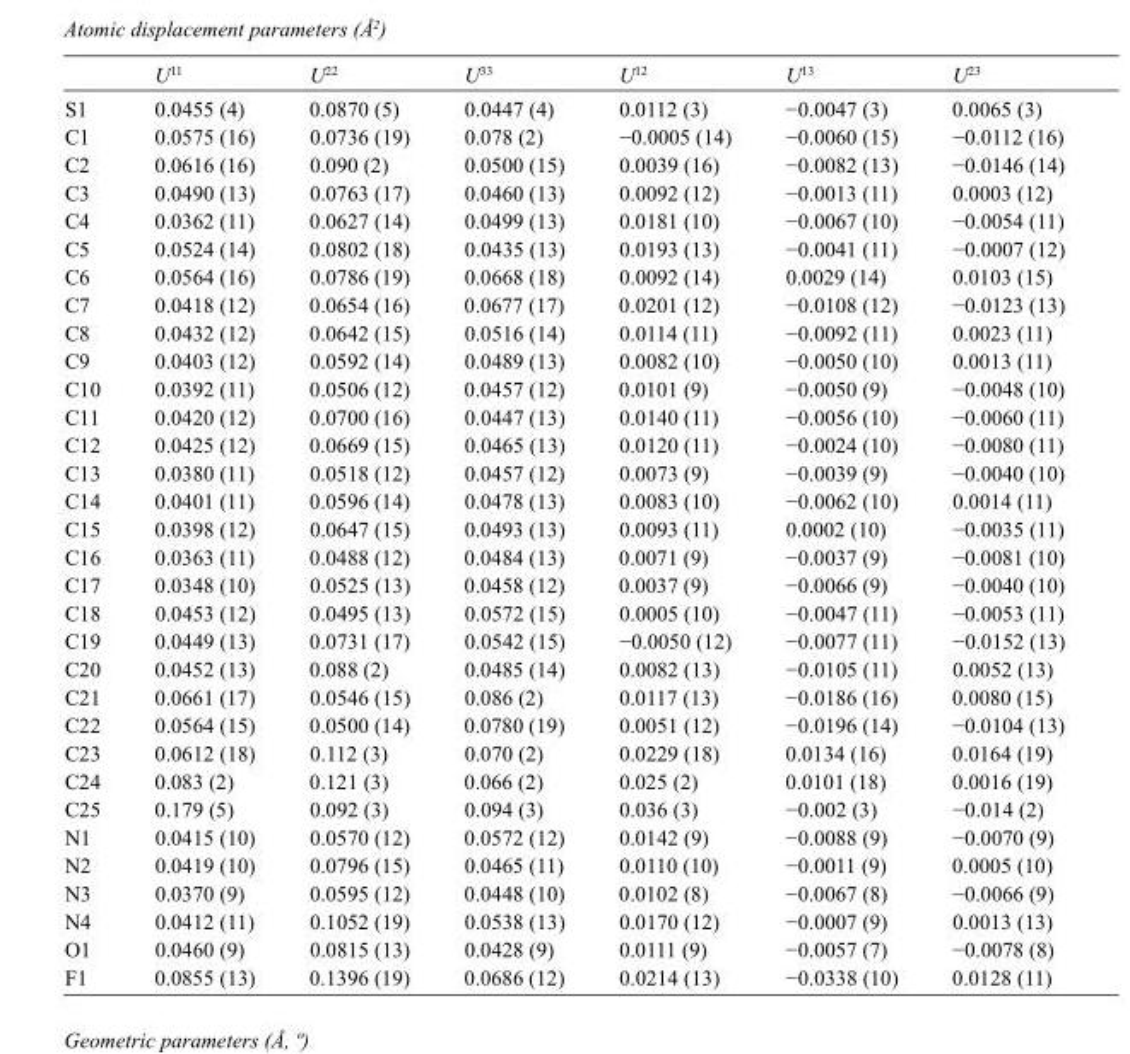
<table><thead><tr><td></td><td>U<sup>11</sup></td><td>U<sup>22</sup></td><td>U<sup>33</sup></td><td>U<sup>12</sup></td><td>U<sup>13</sup></td><td>U<sup>23</sup></td></tr></thead><tbody><tr><td>S1</td><td>0.0455 (4)</td><td>0.0870 (5)</td><td>0.0447 (4)</td><td>0.0112 (3)</td><td>−0.0047 (3)</td><td>0.0065 (3)</td></tr><tr><td>C1</td><td>0.0575 (16)</td><td>0.0736 (19)</td><td>0.078 (2)</td><td>−0.0005 (14)</td><td>−0.0060 (15)</td><td>−0.0112 (16)</td></tr><tr><td>C2</td><td>0.0616 (16)</td><td>0.090 (2)</td><td>0.0500 (15)</td><td>0.0039 (16)</td><td>−0.0082 (13)</td><td>−0.0146 (14)</td></tr><tr><td>C3</td><td>0.0490 (13)</td><td>0.0763 (17)</td><td>0.0460 (13)</td><td>0.0092 (12)</td><td>−0.0013 (11)</td><td>0.0003 (12)</td></tr><tr><td>C4</td><td>0.0362 (11)</td><td>0.0627 (14)</td><td>0.0499 (13)</td><td>0.0181 (10)</td><td>−0.0067 (10)</td><td>−0.0054 (11)</td></tr><tr><td>C5</td><td>0.0524 (14)</td><td>0.0802 (18)</td><td>0.0435 (13)</td><td>0.0193 (13)</td><td>−0.0041 (11)</td><td>−0.0007 (12)</td></tr><tr><td>C6</td><td>0.0564 (16)</td><td>0.0786 (19)</td><td>0.0668 (18)</td><td>0.0092 (14)</td><td>0.0029 (14)</td><td>0.0103 (15)</td></tr><tr><td>C7</td><td>0.0418 (12)</td><td>0.0654 (16)</td><td>0.0677 (17)</td><td>0.0201 (12)</td><td>−0.0108 (12)</td><td>−0.0123 (13)</td></tr><tr><td>C8</td><td>0.0432 (12)</td><td>0.0642 (15)</td><td>0.0516 (14)</td><td>0.0114 (11)</td><td>−0.0092 (11)</td><td>0.0023 (11)</td></tr><tr><td>C9</td><td>0.0403 (12)</td><td>0.0592 (14)</td><td>0.0489 (13)</td><td>0.0082 (10)</td><td>−0.0050 (10)</td><td>0.0013 (11)</td></tr><tr><td>C10</td><td>0.0392 (11)</td><td>0.0506 (12)</td><td>0.0457 (12)</td><td>0.0101 (9)</td><td>−0.0050 (9)</td><td>−0.0048 (10)</td></tr><tr><td>C11</td><td>0.0420 (12)</td><td>0.0700 (16)</td><td>0.0447 (13)</td><td>0.0140 (11)</td><td>−0.0056 (10)</td><td>−0.0060 (11)</td></tr><tr><td>C12</td><td>0.0425 (12)</td><td>0.0669 (15)</td><td>0.0465 (13)</td><td>0.0120 (11)</td><td>−0.0024 (10)</td><td>−0.0080 (11)</td></tr><tr><td>C13</td><td>0.0380 (11)</td><td>0.0518 (12)</td><td>0.0457 (12)</td><td>0.0073 (9)</td><td>−0.0039 (9)</td><td>−0.0040 (10)</td></tr><tr><td>C14</td><td>0.0401 (11)</td><td>0.0596 (14)</td><td>0.0478 (13)</td><td>0.0083 (10)</td><td>−0.0062 (10)</td><td>0.0014 (11)</td></tr><tr><td>C15</td><td>0.0398 (12)</td><td>0.0647 (15)</td><td>0.0493 (13)</td><td>0.0093 (11)</td><td>0.0002 (10)</td><td>−0.0035 (11)</td></tr><tr><td>C16</td><td>0.0363 (11)</td><td>0.0488 (12)</td><td>0.0484 (13)</td><td>0.0071 (9)</td><td>−0.0037 (9)</td><td>−0.0081 (10)</td></tr><tr><td>C17</td><td>0.0348 (10)</td><td>0.0525 (13)</td><td>0.0458 (12)</td><td>0.0037 (9)</td><td>−0.0066 (9)</td><td>−0.0040 (10)</td></tr><tr><td>C18</td><td>0.0453 (12)</td><td>0.0495 (13)</td><td>0.0572 (15)</td><td>0.0005 (10)</td><td>−0.0047 (11)</td><td>−0.0053 (11)</td></tr><tr><td>C19</td><td>0.0449 (13)</td><td>0.0731 (17)</td><td>0.0542 (15)</td><td>−0.0050 (12)</td><td>−0.0077 (11)</td><td>−0.0152 (13)</td></tr><tr><td>C20</td><td>0.0452 (13)</td><td>0.088 (2)</td><td>0.0485 (14)</td><td>0.0082 (13)</td><td>−0.0105 (11)</td><td>0.0052 (13)</td></tr><tr><td>C21</td><td>0.0661 (17)</td><td>0.0546 (15)</td><td>0.086 (2)</td><td>0.0117 (13)</td><td>−0.0186 (16)</td><td>0.0080 (15)</td></tr><tr><td>C22</td><td>0.0564 (15)</td><td>0.0500 (14)</td><td>0.0780 (19)</td><td>0.0051 (12)</td><td>−0.0196 (14)</td><td>−0.0104 (13)</td></tr><tr><td>C23</td><td>0.0612 (18)</td><td>0.112 (3)</td><td>0.070 (2)</td><td>0.0229 (18)</td><td>0.0134 (16)</td><td>0.0164 (19)</td></tr><tr><td>C24</td><td>0.083 (2)</td><td>0.121 (3)</td><td>0.066 (2)</td><td>0.025 (2)</td><td>0.0101 (18)</td><td>0.0016 (19)</td></tr><tr><td>C25</td><td>0.179 (5)</td><td>0.092 (3)</td><td>0.094 (3)</td><td>0.036 (3)</td><td>−0.002 (3)</td><td>−0.014 (2)</td></tr><tr><td>N1</td><td>0.0415 (10)</td><td>0.0570 (12)</td><td>0.0572 (12)</td><td>0.0142 (9)</td><td>−0.0088 (9)</td><td>−0.0070 (9)</td></tr><tr><td>N2</td><td>0.0419 (10)</td><td>0.0796 (15)</td><td>0.0465 (11)</td><td>0.0110 (10)</td><td>−0.0011 (9)</td><td>0.0005 (10)</td></tr><tr><td>N3</td><td>0.0370 (9)</td><td>0.0595 (12)</td><td>0.0448 (10)</td><td>0.0102 (8)</td><td>−0.0067 (8)</td><td>−0.0066 (9)</td></tr><tr><td>N4</td><td>0.0412 (11)</td><td>0.1052 (19)</td><td>0.0538 (13)</td><td>0.0170 (12)</td><td>−0.0007 (9)</td><td>0.0013 (13)</td></tr><tr><td>O1</td><td>0.0460 (9)</td><td>0.0815 (13)</td><td>0.0428 (9)</td><td>0.0111 (9)</td><td>−0.0057 (7)</td><td>−0.0078 (8)</td></tr><tr><td>F1</td><td>0.0855 (13)</td><td>0.1396 (19)</td><td>0.0686 (12)</td><td>0.0214 (13)</td><td>−0.0338 (10)</td><td>0.0128 (11)</td></tr></tbody></table>